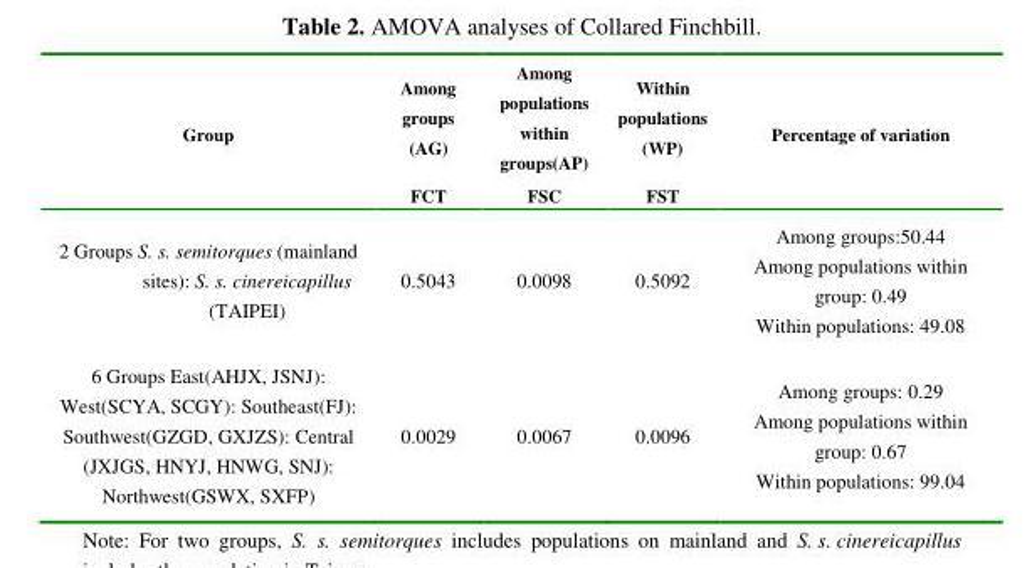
<table><thead><tr><td rowspan="2">Group</td><td rowspan="2">Among groups (AG) FCT</td><td rowspan="2">Among populations within groups(AP) FSC</td><td rowspan="2">Within populations (WP) FST</td><td rowspan="2">Percentage of variation</td></tr><tr></tr></thead><tbody><tr><td>2 Groups S. s. semitorques (mainland sites): S. s. cinereicapillus (TAIPEI)</td><td>0.5043</td><td>0.0098</td><td>0.5092</td><td>Among groups:50.44 Among populations within group: 0.49 Within populations: 49.08</td></tr><tr><td>6 Groups East(AHJX, JSNJ): West(SCYA, SCGY): Southeast(FJ): Southwest(GZGD, GXJZS): Central (JXJGS, HNYJ, HNWG, SNJ): Northwest(GSWX, SXFP)</td><td>0.0029</td><td>0.0067</td><td>0.0096</td><td>Among groups: 0.29 Among populations within group: 0.67 Within populations: 99.04</td></tr></tbody></table>